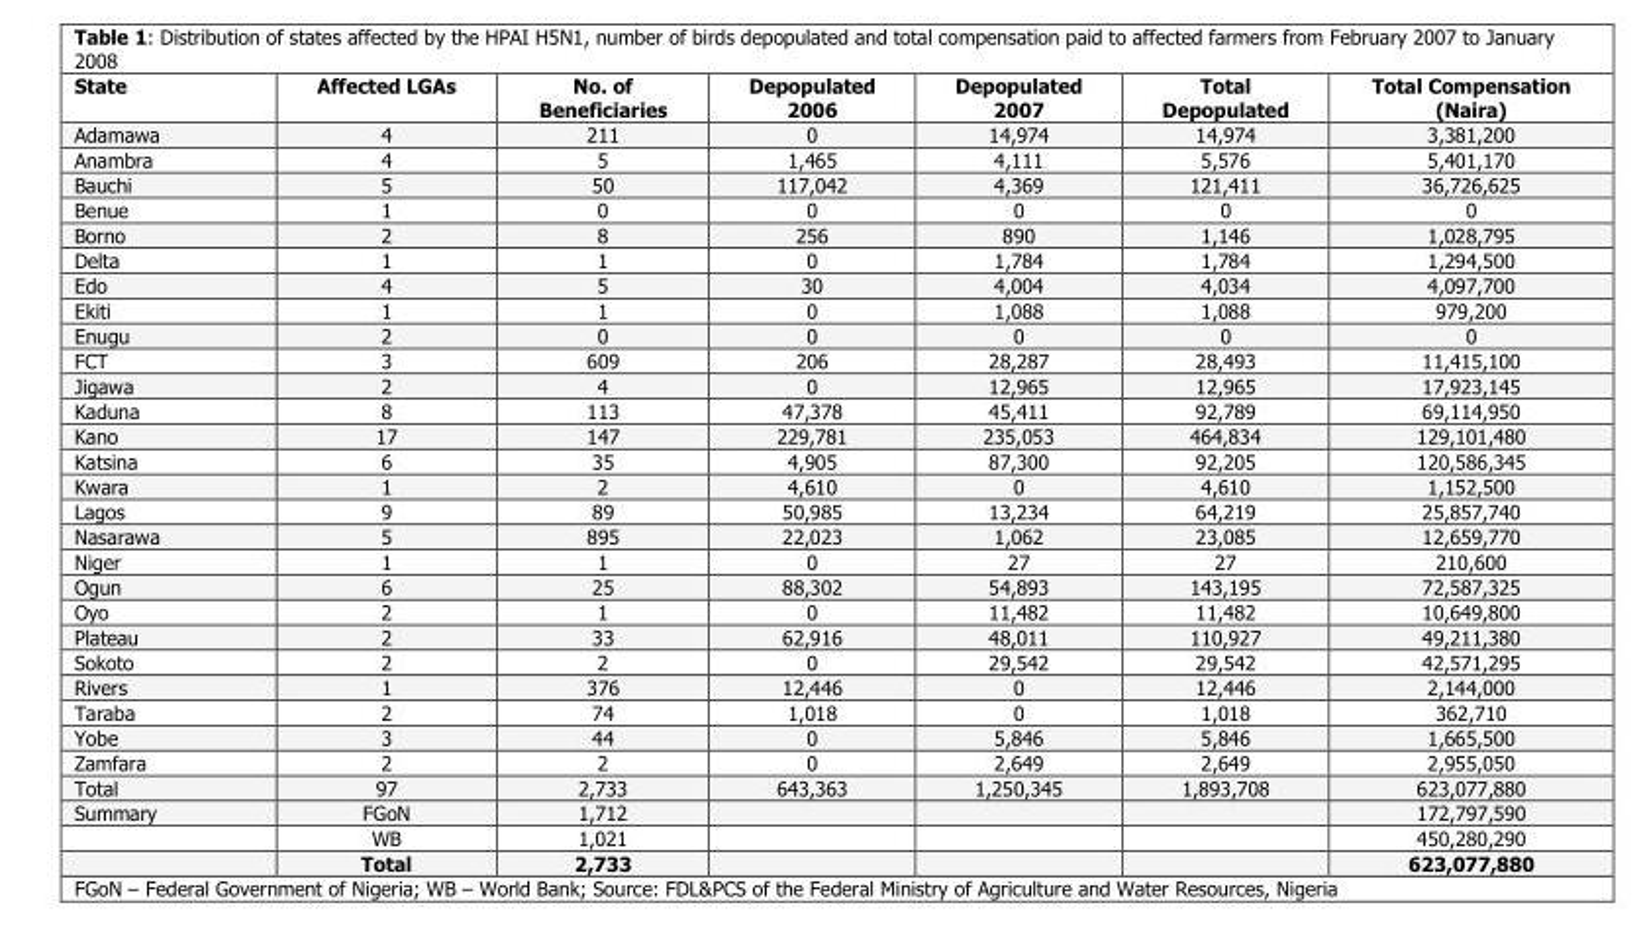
<table><thead><tr><td>State</td><td>Affected LGAs</td><td>No. of Beneficiaries</td><td>Depopulated 2006</td><td>Depopulated 2007</td><td>Total Depopulated</td><td>Total Compensation (Naira)</td></tr></thead><tbody><tr><td>Adamawa</td><td>4</td><td>211</td><td>0</td><td>14,974</td><td>14,974</td><td>3,381,200</td></tr><tr><td>Anambra</td><td>4</td><td>5</td><td>1,465</td><td>4,111</td><td>5,576</td><td>5,401,170</td></tr><tr><td>Bauchi</td><td>5</td><td>50</td><td>117,042</td><td>4,369</td><td>121,411</td><td>36,726,625</td></tr><tr><td>Benue</td><td>1</td><td>0</td><td>0</td><td>0</td><td>0</td><td>0</td></tr><tr><td>Borno</td><td>2</td><td>8</td><td>256</td><td>890</td><td>1,146</td><td>1,028,795</td></tr><tr><td>Delta</td><td>1</td><td>1</td><td>0</td><td>1,784</td><td>1,784</td><td>1,294,500</td></tr><tr><td>Edo</td><td>4</td><td>5</td><td>30</td><td>4,004</td><td>4,034</td><td>4,097,700</td></tr><tr><td>Ekiti</td><td>1</td><td>1</td><td>0</td><td>1,088</td><td>1,088</td><td>979,200</td></tr><tr><td>Enugu</td><td>2</td><td>0</td><td>0</td><td>0</td><td>0</td><td>0</td></tr><tr><td>FCT</td><td>3</td><td>609</td><td>206</td><td>28,287</td><td>28,493</td><td>11,415,100</td></tr><tr><td>Jigawa</td><td>2</td><td>4</td><td>0</td><td>12,965</td><td>12,965</td><td>17,923,145</td></tr><tr><td>Kaduna</td><td>8</td><td>113</td><td>47,378</td><td>45,411</td><td>92,789</td><td>69,114,950</td></tr><tr><td>Kano</td><td>17</td><td>147</td><td>229,781</td><td>235,053</td><td>464,834</td><td>129,101,480</td></tr><tr><td>Katsina</td><td>6</td><td>35</td><td>4,905</td><td>87,300</td><td>92,205</td><td>120,586,345</td></tr><tr><td>Kwara</td><td>1</td><td>2</td><td>4,610</td><td>0</td><td>4,610</td><td>1,152,500</td></tr><tr><td>Lagos</td><td>9</td><td>89</td><td>50,985</td><td>13,234</td><td>64,219</td><td>25,857,740</td></tr><tr><td>Nasarawa</td><td>5</td><td>895</td><td>22,023</td><td>1,062</td><td>23,085</td><td>12,659,770</td></tr><tr><td>Niger</td><td>1</td><td>1</td><td>0</td><td>27</td><td>27</td><td>210,600</td></tr><tr><td>Ogun</td><td>6</td><td>25</td><td>88,302</td><td>54,893</td><td>143,195</td><td>72,587,325</td></tr><tr><td>Oyo</td><td>2</td><td>1</td><td>0</td><td>11,482</td><td>11,482</td><td>10,649,800</td></tr><tr><td>Plateau</td><td>2</td><td>33</td><td>62,916</td><td>48,011</td><td>110,927</td><td>49,211,380</td></tr><tr><td>Sokoto</td><td>2</td><td>2</td><td>0</td><td>29,542</td><td>29,542</td><td>42,571,295</td></tr><tr><td>Rivers</td><td>1</td><td>376</td><td>12,446</td><td>0</td><td>12,446</td><td>2,144,000</td></tr><tr><td>Taraba</td><td>2</td><td>74</td><td>1,018</td><td>0</td><td>1,018</td><td>362,710</td></tr><tr><td>Yobe</td><td>3</td><td>44</td><td>0</td><td>5,846</td><td>5,846</td><td>1,665,500</td></tr><tr><td>Zamfara</td><td>2</td><td>2</td><td>0</td><td>2,649</td><td>2,649</td><td>2,955,050</td></tr><tr><td>Total</td><td>97</td><td>2,733</td><td>643,363</td><td>1,250,345</td><td>1,893,708</td><td>623,077,880</td></tr><tr><td rowspan="3">Summary</td><td>FGoN</td><td>1,712</td><td></td><td></td><td></td><td>172,797,590</td></tr><tr><td>WB</td><td>1,021</td><td></td><td></td><td></td><td>450,280,290</td></tr><tr><td>Total</td><td>2,733</td><td></td><td></td><td></td><td>623,077,880</td></tr></tbody></table>